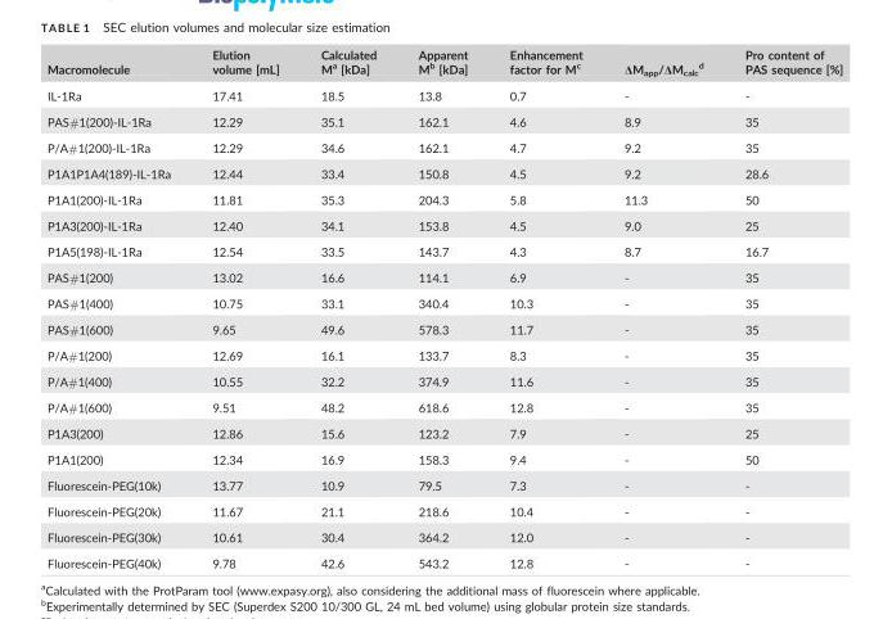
<table><thead><tr><td>Macromolecule</td><td>Elution volume [mL]</td><td>Calculated M<sup>a</sup> [kDa]</td><td>Apparent M<sup>b</sup> [kDa]</td><td>Enhancement factor for M<sup>c</sup></td><td>ΔM<sub>app</sub>/ΔM<sub>calc</sub> d</td><td>Pro content of PAS sequence [%]</td></tr></thead><tbody><tr><td>IL-1Ra</td><td>17.41</td><td>18.5</td><td>13.8</td><td>0.7</td><td>-</td><td>-</td></tr><tr><td>PAS#1(200)-IL-1Ra</td><td>12.29</td><td>35.1</td><td>162.1</td><td>4.6</td><td>8.9</td><td>35</td></tr><tr><td>P/A#1(200)-IL-1Ra</td><td>12.29</td><td>34.6</td><td>162.1</td><td>4.7</td><td>9.2</td><td>35</td></tr><tr><td>P1A1P1A4(189)-IL-1Ra</td><td>12.44</td><td>33.4</td><td>150.8</td><td>4.5</td><td>9.2</td><td>28.6</td></tr><tr><td>P1A1(200)-IL-1Ra</td><td>11.81</td><td>35.3</td><td>204.3</td><td>5.8</td><td>11.3</td><td>50</td></tr><tr><td>P1A3(200)-IL-1Ra</td><td>12.40</td><td>34.1</td><td>153.8</td><td>4.5</td><td>9.0</td><td>25</td></tr><tr><td>P1A5(198)-IL-1Ra</td><td>12.54</td><td>33.5</td><td>143.7</td><td>4.3</td><td>8.7</td><td>16.7</td></tr><tr><td>PAS#1(200)</td><td>13.02</td><td>16.6</td><td>114.1</td><td>6.9</td><td>-</td><td>35</td></tr><tr><td>PAS#1(400)</td><td>10.75</td><td>33.1</td><td>340.4</td><td>10.3</td><td>-</td><td>35</td></tr><tr><td>PAS#1(600)</td><td>9.65</td><td>49.6</td><td>578.3</td><td>11.7</td><td>-</td><td>35</td></tr><tr><td>P/A#1(200)</td><td>12.69</td><td>16.1</td><td>133.7</td><td>8.3</td><td>-</td><td>35</td></tr><tr><td>P/A#1(400)</td><td>10.55</td><td>32.2</td><td>374.9</td><td>11.6</td><td>-</td><td>35</td></tr><tr><td>P/A#1(600)</td><td>9.51</td><td>48.2</td><td>618.6</td><td>12.8</td><td>-</td><td>35</td></tr><tr><td>P1A3(200)</td><td>12.86</td><td>15.6</td><td>123.2</td><td>7.9</td><td>-</td><td>25</td></tr><tr><td>P1A1(200)</td><td>12.34</td><td>16.9</td><td>158.3</td><td>9.4</td><td>-</td><td>50</td></tr><tr><td>Fluorescein-PEG(10k)</td><td>13.77</td><td>10.9</td><td>79.5</td><td>7.3</td><td>-</td><td>-</td></tr><tr><td>Fluorescein-PEG(20k)</td><td>11.67</td><td>21.1</td><td>218.6</td><td>10.4</td><td>-</td><td>-</td></tr><tr><td>Fluorescein-PEG(30k)</td><td>10.61</td><td>30.4</td><td>364.2</td><td>12.0</td><td>-</td><td>-</td></tr><tr><td>Fluorescein-PEG(40k)</td><td>9.78</td><td>42.6</td><td>543.2</td><td>12.8</td><td>-</td><td>-</td></tr></tbody></table>